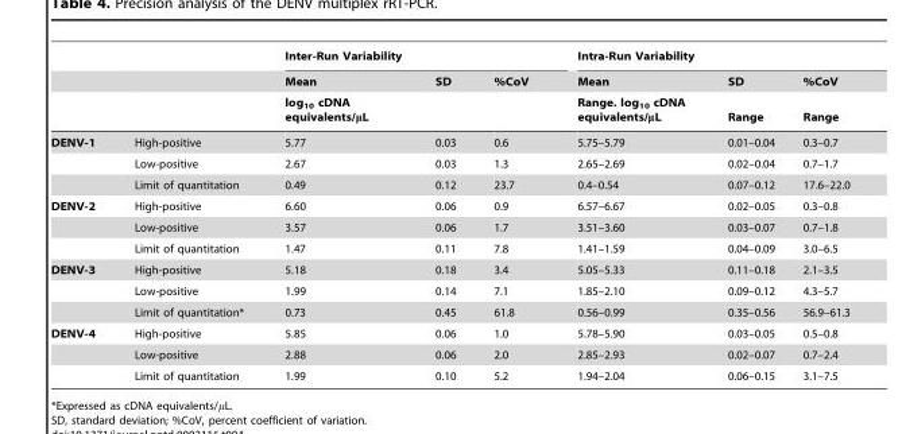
<table><thead><tr><td rowspan="3"></td><td rowspan="3"></td><td colspan="3">Inter-Run Variability</td><td colspan="3">Intra-Run Variability</td></tr><tr><td rowspan="2">Mean log<sub>10</sub> cDNA equivalents/µL</td><td rowspan="2">SD</td><td rowspan="2">%CoV</td><td rowspan="2">Mean Range. log<sub>10</sub> cDNA equivalents/µL</td><td rowspan="2">SD Range</td><td rowspan="2">%CoV Range</td></tr><tr></tr></thead><tbody><tr><td rowspan="3">DENV-1</td><td>High-positive</td><td>5.77</td><td>0.03</td><td>0.6</td><td>5.75–5.79</td><td>0.01–0.04</td><td>0.3–0.7</td></tr><tr><td>Low-positive</td><td>2.67</td><td>0.03</td><td>1.3</td><td>2.65–2.69</td><td>0.02–0.04</td><td>0.7–1.7</td></tr><tr><td>Limit of quantitation</td><td>0.49</td><td>0.12</td><td>23.7</td><td>0.4–0.54</td><td>0.07–0.12</td><td>17.6–22.0</td></tr><tr><td rowspan="3">DENV-2</td><td>High-positive</td><td>6.60</td><td>0.06</td><td>0.9</td><td>6.57–6.67</td><td>0.02–0.05</td><td>0.3–0.8</td></tr><tr><td>Low-positive</td><td>3.57</td><td>0.06</td><td>1.7</td><td>3.51–3.60</td><td>0.03–0.07</td><td>0.7–1.8</td></tr><tr><td>Limit of quantitation</td><td>1.47</td><td>0.11</td><td>7.8</td><td>1.41–1.59</td><td>0.04–0.09</td><td>3.0–6.5</td></tr><tr><td rowspan="3">DENV-3</td><td>High-positive</td><td>5.18</td><td>0.18</td><td>3.4</td><td>5.05–5.33</td><td>0.11–0.18</td><td>2.1–3.5</td></tr><tr><td>Low-positive</td><td>1.99</td><td>0.14</td><td>7.1</td><td>1.85–2.10</td><td>0.09–0.12</td><td>4.3–5.7</td></tr><tr><td>Limit of quantitation*</td><td>0.73</td><td>0.45</td><td>61.8</td><td>0.56–0.99</td><td>0.35–0.56</td><td>56.9–61.3</td></tr><tr><td rowspan="3">DENV-4</td><td>High-positive</td><td>5.85</td><td>0.06</td><td>1.0</td><td>5.78–5.90</td><td>0.03–0.05</td><td>0.5–0.8</td></tr><tr><td>Low-positive</td><td>2.88</td><td>0.06</td><td>2.0</td><td>2.85–2.93</td><td>0.02–0.07</td><td>0.7–2.4</td></tr><tr><td>Limit of quantitation</td><td>1.99</td><td>0.10</td><td>5.2</td><td>1.94–2.04</td><td>0.06–0.15</td><td>3.1–7.5</td></tr></tbody></table>